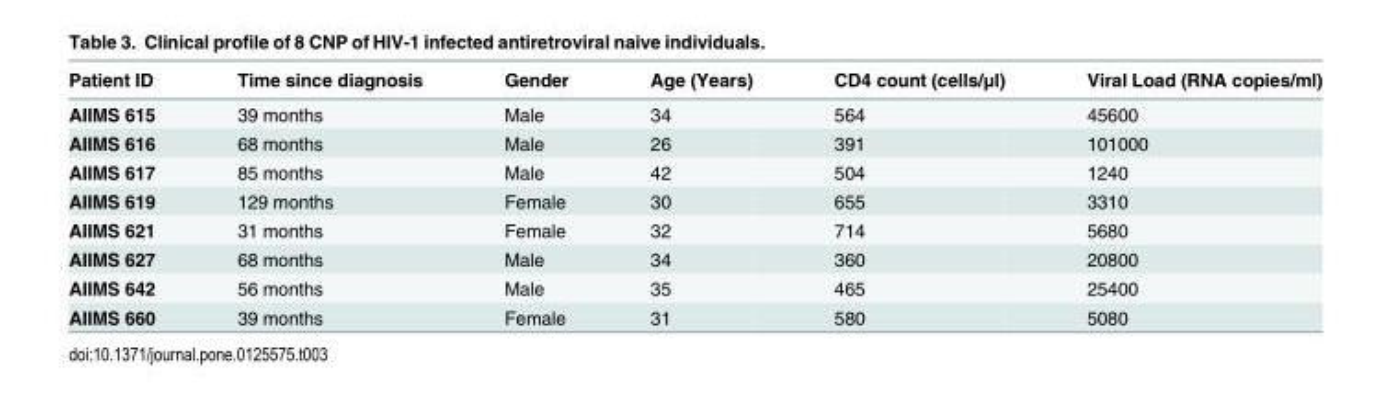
<table><thead><tr><td>Patient ID</td><td>Time since diagnosis</td><td>Gender</td><td>Age (Years)</td><td>CD4 count (cells/μl)</td><td>Viral Load (RNA copies/ml)</td></tr></thead><tbody><tr><td>AIIMS 615</td><td>39 months</td><td>Male</td><td>34</td><td>564</td><td>45600</td></tr><tr><td>AIIMS 616</td><td>68 months</td><td>Male</td><td>26</td><td>391</td><td>101000</td></tr><tr><td>AIIMS 617</td><td>85 months</td><td>Male</td><td>42</td><td>504</td><td>1240</td></tr><tr><td>AIIMS 619</td><td>129 months</td><td>Female</td><td>30</td><td>655</td><td>3310</td></tr><tr><td>AIIMS 621</td><td>31 months</td><td>Female</td><td>32</td><td>714</td><td>5680</td></tr><tr><td>AIIMS 627</td><td>68 months</td><td>Male</td><td>34</td><td>360</td><td>20800</td></tr><tr><td>AIIMS 642</td><td>56 months</td><td>Male</td><td>35</td><td>465</td><td>25400</td></tr><tr><td>AIIMS 660</td><td>39 months</td><td>Female</td><td>31</td><td>580</td><td>5080</td></tr></tbody></table>